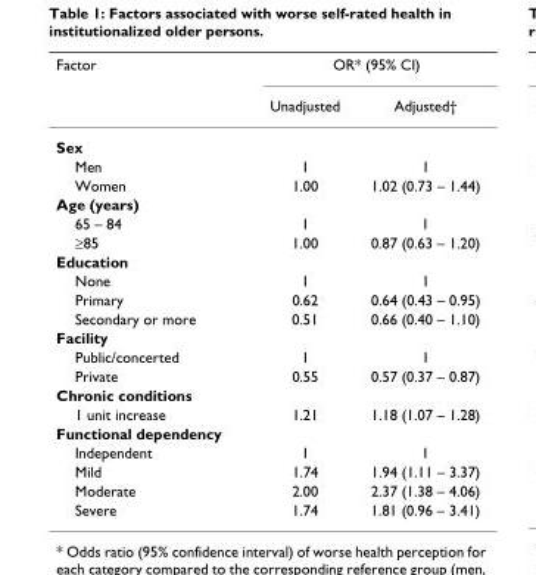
<table><thead><tr><td rowspan="2">Factor</td><td colspan="2">OR* (95% CI)</td></tr><tr><td>Unadjusted</td><td>Adjusted†</td></tr></thead><tbody><tr><td colspan="3">Sex</td></tr><tr><td>Men</td><td>1</td><td>1</td></tr><tr><td>Women</td><td>1.00</td><td>1.02 (0.73 – 1.44)</td></tr><tr><td colspan="3">Age (years)</td></tr><tr><td>65 – 84</td><td>1</td><td>1</td></tr><tr><td>≥85</td><td>1.00</td><td>0.87 (0.63 – 1.20)</td></tr><tr><td colspan="3">Education</td></tr><tr><td>None</td><td>1</td><td>1</td></tr><tr><td>Primary</td><td>0.62</td><td>0.64 (0.43 – 0.95)</td></tr><tr><td>Secondary or more</td><td>0.51</td><td>0.66 (0.40 – 1.10)</td></tr><tr><td colspan="3">Facility</td></tr><tr><td>Public/concerted</td><td>1</td><td>1</td></tr><tr><td>Private</td><td>0.55</td><td>0.57 (0.37 – 0.87)</td></tr><tr><td colspan="3">Chronic conditions</td></tr><tr><td>1 unit increase</td><td>1.21</td><td>1.18 (1.07 – 1.28)</td></tr><tr><td colspan="3">Functional dependency</td></tr><tr><td>Independent</td><td>1</td><td>1</td></tr><tr><td>Mild</td><td>1.74</td><td>1.94 (1.11 – 3.37)</td></tr><tr><td>Moderate</td><td>2.00</td><td>2.37 (1.38 – 4.06)</td></tr><tr><td>Severe</td><td>1.74</td><td>1.81 (0.96 – 3.41)</td></tr></tbody></table>